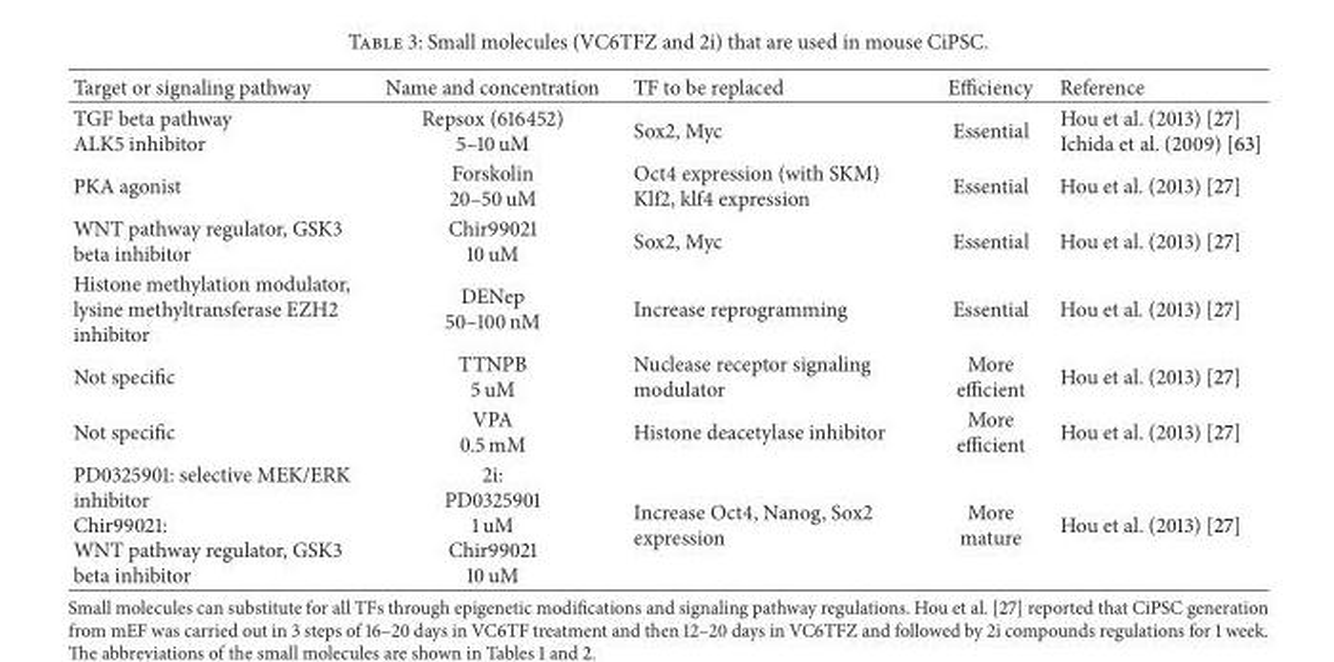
<table><thead><tr><td>Target or signaling pathway</td><td>Name and concentration</td><td>TF to be replaced</td><td>Efficiency</td><td>Reference</td></tr></thead><tbody><tr><td>TGF beta pathway ALK5 inhibitor</td><td>Repsox (616452) 5–10 uM</td><td>Sox2, Myc</td><td>Essential</td><td>Hou et al. (2013) [27] Ichida et al. (2009) [63]</td></tr><tr><td>PKA agonist</td><td>Forskolin 20–50 uM</td><td>Oct4 expression (with SKM) Klf2, klf4 expression</td><td>Essential</td><td>Hou et al. (2013) [27]</td></tr><tr><td>WNT pathway regulator, GSK3 beta inhibitor</td><td>Chir99021 10 uM</td><td>Sox2, Myc</td><td>Essential</td><td>Hou et al. (2013) [27]</td></tr><tr><td>Histone methylation modulator, lysine methyltransferase EZH2 inhibitor</td><td>DENep 50–100 nM</td><td>Increase reprogramming</td><td>Essential</td><td>Hou et al. (2013) [27]</td></tr><tr><td>Not specific</td><td>TTNPB 5 uM</td><td>Nuclease receptor signaling modulator</td><td>More efficient</td><td>Hou et al. (2013) [27]</td></tr><tr><td>Not specific</td><td>VPA 0.5 mM</td><td>Histone deacetylase inhibitor</td><td>More efficient</td><td>Hou et al. (2013) [27]</td></tr><tr><td>PD0325901: selective MEK/ERK inhibitor Chir99021: WNT pathway regulator, GSK3 beta inhibitor</td><td>2i: PD0325901 1 uM Chir99021 10 uM</td><td>Increase Oct4, Nanog, Sox2 expression</td><td>More mature</td><td>Hou et al. (2013) [27]</td></tr></tbody></table>